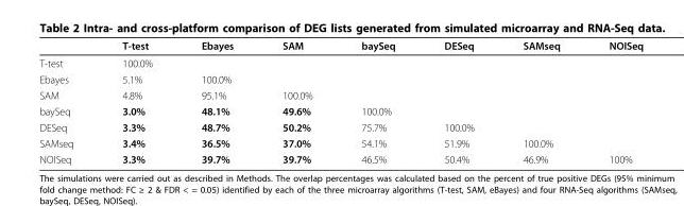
<table><thead><tr><td></td><td>T-test</td><td>Ebayes</td><td>SAM</td><td>baySeq</td><td>DESeq</td><td>SAMseq</td><td>NOISeq</td></tr></thead><tbody><tr><td>T-test</td><td>100.0%</td><td></td><td></td><td></td><td></td><td></td><td></td></tr><tr><td>Ebayes</td><td>5.1%</td><td>100.0%</td><td></td><td></td><td></td><td></td><td></td></tr><tr><td>SAM</td><td>4.8%</td><td>95.1%</td><td>100.0%</td><td></td><td></td><td></td><td></td></tr><tr><td>baySeq</td><td>3.0%</td><td>48.1%</td><td>49.6%</td><td>100.0%</td><td></td><td></td><td></td></tr><tr><td>DESeq</td><td>3.3%</td><td>48.7%</td><td>50.2%</td><td>75.7%</td><td>100.0%</td><td></td><td></td></tr><tr><td>SAMseq</td><td>3.4%</td><td>36.5%</td><td>37.0%</td><td>54.1%</td><td>51.9%</td><td>100.0%</td><td></td></tr><tr><td>NOISeq</td><td>3.3%</td><td>39.7%</td><td>39.7%</td><td>46.5%</td><td>50.4%</td><td>46.9%</td><td>100%</td></tr></tbody></table>